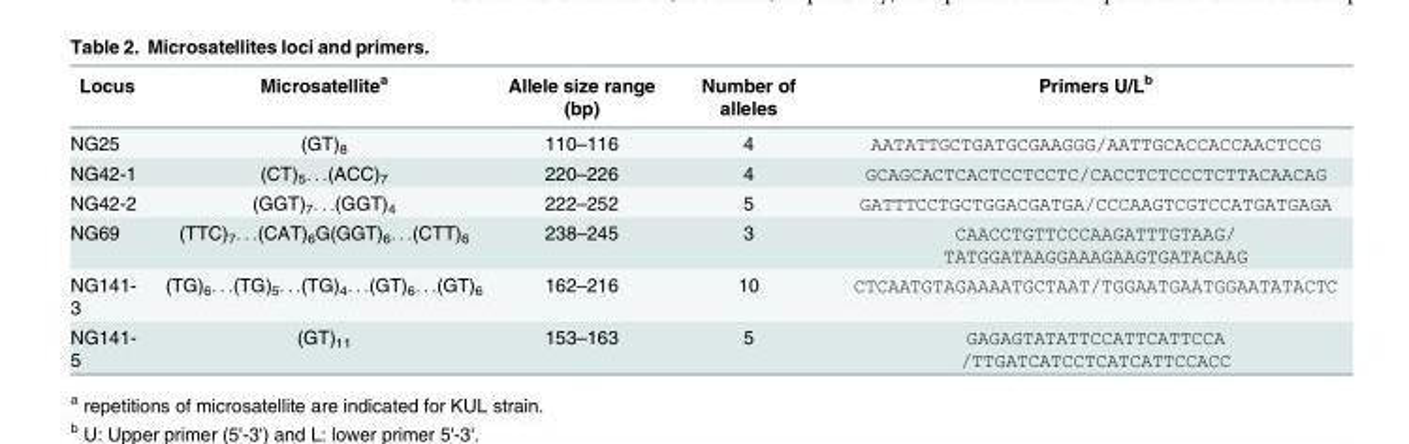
<table><thead><tr><td>Locus</td><td>Microsatellite<sup>a</sup></td><td>Allele size range (bp)</td><td>Number of alleles</td><td>Primers U/L<sup>b</sup></td></tr></thead><tbody><tr><td>NG25</td><td>(GT)<sub>8</sub></td><td>110–116</td><td>4</td><td>AATATTGCTGATGCGAAGGG/AATTGCACCACCAACTCCG</td></tr><tr><td>NG42-1</td><td>(CT)<sub>5</sub>. . .(ACC)<sub>7</sub></td><td>220–226</td><td>4</td><td>GCAGCACTCACTCCTCCTC/CACCTCTCCCTCTTACAACAG</td></tr><tr><td>NG42-2</td><td>(GGT)<sub>7</sub>. . .(GGT)<sub>4</sub></td><td>222–252</td><td>5</td><td>GATTTCCTGCTGGACGATGA/CCCAAGTCGTCCATGATGAGA</td></tr><tr><td>NG69</td><td>(TTC)<sub>7</sub>. . .(CAT)<sub>6</sub>G(GGT)<sub>6</sub>. . .(CTT)<sub>6</sub></td><td>238–245</td><td>3</td><td>CAACCTGTTCCCAAGATTTGTAAG/ TATGGATAAGGAAAGAAGTGATACAAG</td></tr><tr><td>NG141- 3</td><td>(TG)<sub>6</sub>. . .(TG)<sub>5</sub>. . .(TG)<sub>4</sub>. . .(GT)<sub>6</sub>. . .(GT)<sub>6</sub></td><td>162–216</td><td>10</td><td>CTCAATGTAGAAAATGCTAAT/TGGAATGAATGGAATATACTC</td></tr><tr><td>NG141- 5</td><td>(GT)<sub>11</sub></td><td>153–163</td><td>5</td><td>GAGAGTATATTCCATTCATTCCA /TTGATCATCCTCATCATTCCACC</td></tr></tbody></table>